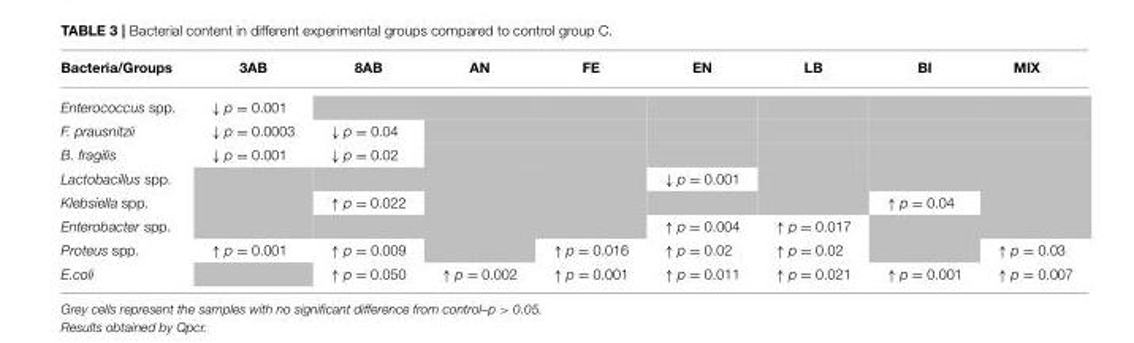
<table><thead><tr><td>Bacteria/Groups</td><td>3AB</td><td>8AB</td><td>AN</td><td>FE</td><td>EN</td><td>LB</td><td>BI</td><td>MIX</td></tr></thead><tbody><tr><td>Enterococcus spp.</td><td>↓ p = 0.001</td><td></td><td></td><td></td><td></td><td></td><td></td><td></td></tr><tr><td>F. prausnitzii</td><td>↓ p = 0.0003</td><td>↓ p = 0.04</td><td></td><td></td><td></td><td></td><td></td><td></td></tr><tr><td>B. fragilis</td><td>↓ p = 0.001</td><td>↓ p = 0.02</td><td></td><td></td><td></td><td></td><td></td><td></td></tr><tr><td>Lactobacillus spp.</td><td></td><td></td><td></td><td></td><td>↓ p = 0.001</td><td></td><td></td><td></td></tr><tr><td>Klebsiella spp.</td><td></td><td>↑ p = 0.022</td><td></td><td></td><td></td><td></td><td>↑ p = 0.04</td><td></td></tr><tr><td>Enterobacter spp.</td><td></td><td></td><td></td><td></td><td>↑ p = 0.004</td><td>↑ p = 0.017</td><td></td><td></td></tr><tr><td>Proteus spp.</td><td>↑ p = 0.001</td><td>↑ p = 0.009</td><td></td><td>↑ p = 0.016</td><td>↑ p = 0.02</td><td>↑ p = 0.02</td><td></td><td>↑ p = 0.03</td></tr><tr><td>E.coli</td><td></td><td>↑ p = 0.050</td><td>↑ p = 0.002</td><td>↑ p = 0.001</td><td>↑ p = 0.011</td><td>↑ p = 0.021</td><td>↑ p = 0.001</td><td>↑ p = 0.007</td></tr></tbody></table>